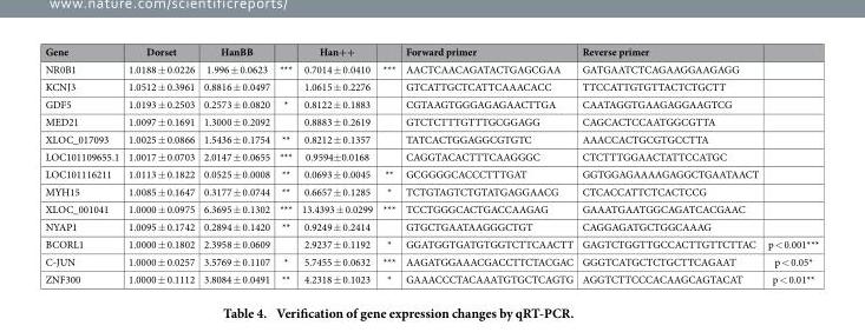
<table><thead><tr><td>Gene</td><td>Dorset</td><td>HanBB</td><td></td><td>Han++</td><td></td><td>Forward primer</td><td>Reverse primer</td><td></td></tr></thead><tbody><tr><td>NR0B1</td><td>1.0188 ± 0.0226</td><td>1.996 ± 0.0623</td><td>***</td><td>0.7014 ± 0.0410</td><td>***</td><td>AACTCAACAGATACTGAGCGAA</td><td>GATGAATCTCAGAAGGAAGAGG</td><td></td></tr><tr><td>KCNJ3</td><td>1.0512 ± 0.3961</td><td>0.8816 ± 0.0497</td><td></td><td>1.0615 ± 0.2276</td><td></td><td>GTCATTGCTCATTCAAACACC</td><td>TTCCATTGTGTTACTCTGCTT</td><td></td></tr><tr><td>GDF5</td><td>1.0193 ± 0.2503</td><td>0.2573 ± 0.0820</td><td>*</td><td>0.8122 ± 0.1883</td><td></td><td>CGTAAGTGGGAGAGAACTTGA</td><td>CAATAGGTGAAGAGGAAGTCG</td><td></td></tr><tr><td>MED21</td><td>1.0097 ± 0.1691</td><td>1.3000 ± 0.2092</td><td></td><td>0.8883 ± 0.2619</td><td></td><td>GTCTCTTTGTTTGCGGAGG</td><td>CAGCACTCCAATGGCGTTA</td><td></td></tr><tr><td>XLOC_017093</td><td>1.0025 ± 0.0866</td><td>1.5436 ± 0.1754</td><td>**</td><td>0.8212 ± 0.1357</td><td></td><td>TATCACTGGAGGCGTGTC</td><td>AAACCACTGCGTGCCTTA</td><td></td></tr><tr><td>LOC101109655.1</td><td>1.0017 ± 0.0703</td><td>2.0147 ± 0.0655</td><td>***</td><td>0.9594± 0.0168</td><td></td><td>CAGGTACACTTTCAAGGGC</td><td>CTCTTTGGAACTATTCCATGC</td><td></td></tr><tr><td>LOC101116211</td><td>1.0113 ± 0.1822</td><td>0.0525 ± 0.0008</td><td>**</td><td>0.0693 ± 0.0045</td><td>**</td><td>GCGGGGCACCCTTTGAT</td><td>GGTGGAGAAAAGAGGCTGAATAACT</td><td></td></tr><tr><td>MYH15</td><td>1.0085 ± 0.1647</td><td>0.3177 ± 0.0744</td><td>**</td><td>0.6657 ± 0.1285</td><td>*</td><td>TCTGTAGTCTGTATGAGGAACG</td><td>CTCACCATTCTCACTCCG</td><td></td></tr><tr><td>XLOC_001041</td><td>1.0000 ± 0.0975</td><td>6.3695 ± 0.1302</td><td>***</td><td>13.4393 ± 0.0299</td><td>***</td><td>TCCTGGGCACTGACCAAGAG</td><td>GAAATGAATGGCAGATCACGAAC</td><td></td></tr><tr><td>NYAP1</td><td>1.0095 ± 0.1742</td><td>0.2894 ± 0.1420</td><td>**</td><td>0.9249 ± 0.2414</td><td></td><td>GTGCTGAATAAGGGCTGT</td><td>CAGGAGATGCTGGCAAAG</td><td></td></tr><tr><td>BCORL1</td><td>1.0000 ± 0.1802</td><td>2.3958 ± 0.0609</td><td></td><td>2.9237 ± 0.1192</td><td>*</td><td>GGATGGTGATGTGGTCTTCAACTT</td><td>GAGTCTGGTTGCCACTTGTTCTTAC</td><td>p &lt; 0.001***</td></tr><tr><td>C-JUN</td><td>1.0000 ± 0.0257</td><td>3.5769 ± 0.1107</td><td>*</td><td>5.7455 ± 0.0632</td><td>***</td><td>AAGATGGAAACGACCTTCTACGAC</td><td>GGGTCATGCTCTGCTTCAGAAT</td><td>p &lt; 0.05*</td></tr><tr><td>ZNF300</td><td>1.0000 ± 0.1112</td><td>3.8084 ± 0.0491</td><td>**</td><td>4.2318 ± 0.1023</td><td>*</td><td>GAAACCCTACAAATGTGCTCAGTG</td><td>AGGTCTTCCCACAAGCAGTACAT</td><td>p &lt; 0.01**</td></tr></tbody></table>